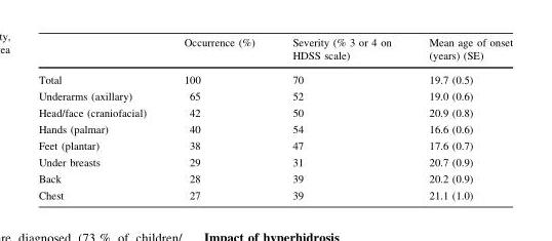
<table><thead><tr><td></td><td>Occurrence (%)</td><td>Severity (% 3 or 4 on HDSS scale)</td><td>Mean age of onset (years) (SE)</td></tr></thead><tbody><tr><td>Total</td><td>100</td><td>70</td><td>19.7 (0.5)</td></tr><tr><td>Underarms (axillary)</td><td>65</td><td>52</td><td>19.0 (0.6)</td></tr><tr><td>Head/face (craniofacial)</td><td>42</td><td>50</td><td>20.9 (0.8)</td></tr><tr><td>Hands (palmar)</td><td>40</td><td>54</td><td>16.6 (0.6)</td></tr><tr><td>Feet (plantar)</td><td>38</td><td>47</td><td>17.6 (0.7)</td></tr><tr><td>Under breasts</td><td>29</td><td>31</td><td>20.7 (0.9)</td></tr><tr><td>Back</td><td>28</td><td>39</td><td>20.2 (0.9)</td></tr><tr><td>Chest</td><td>27</td><td>39</td><td>21.1 (1.0)</td></tr></tbody></table>